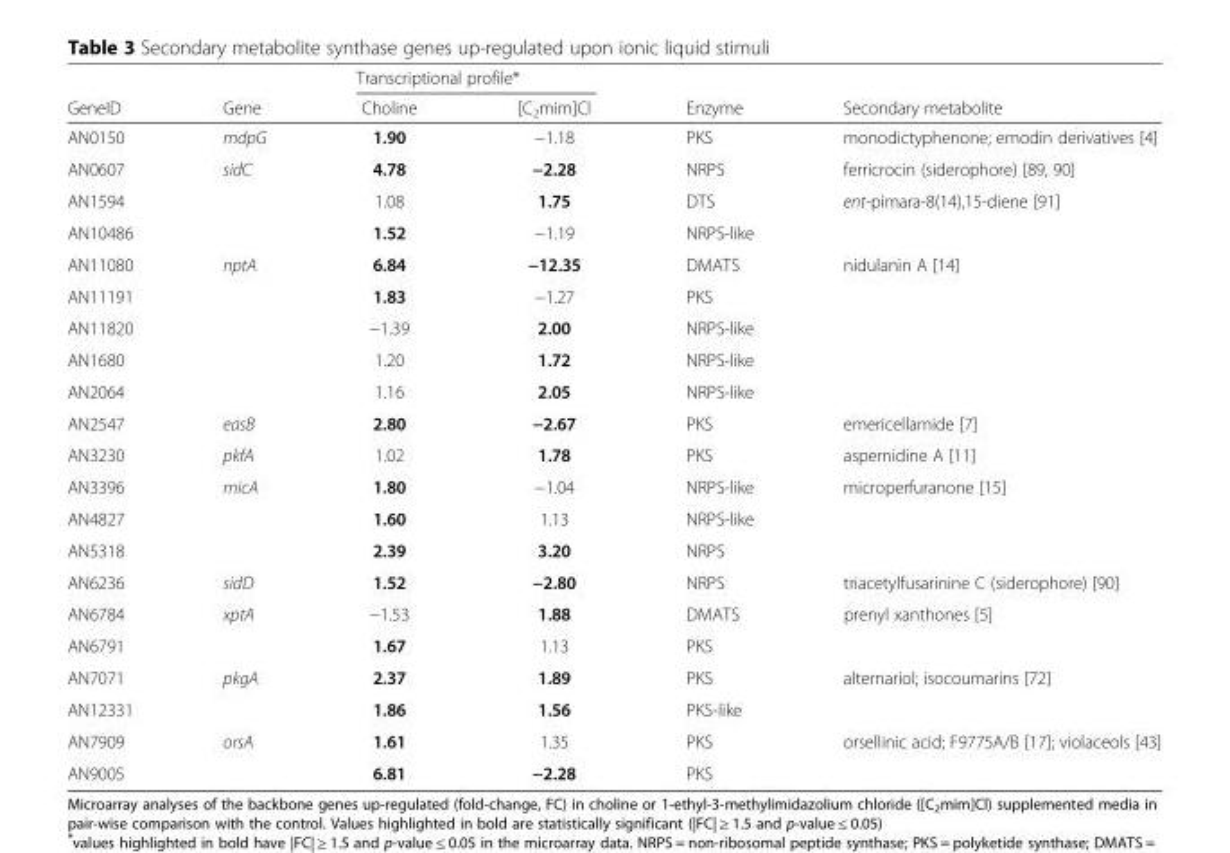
<table><thead><tr><td rowspan="2">GeneID</td><td rowspan="2">Gene</td><td colspan="2">Transcriptional profile*</td><td rowspan="2">Enzyme</td><td rowspan="2">Secondary metabolite</td></tr><tr><td>Choline</td><td>[C<sub>2</sub>mim]Cl</td></tr></thead><tbody><tr><td>AN0150</td><td>mdpG</td><td>1.90</td><td>−1.18</td><td>PKS</td><td>monodictyphenone; emodin derivatives [4]</td></tr><tr><td>AN0607</td><td>sidC</td><td>4.78</td><td>−2.28</td><td>NRPS</td><td>ferricrocin (siderophore) [89, 90]</td></tr><tr><td>AN1594</td><td></td><td>1.08</td><td>1.75</td><td>DTS</td><td>ent-pimara-8(14),15-diene [91]</td></tr><tr><td>AN10486</td><td></td><td>1.52</td><td>−1.19</td><td>NRPS-like</td><td></td></tr><tr><td>AN11080</td><td>nptA</td><td>6.84</td><td>−12.35</td><td>DMATS</td><td>nidulanin A [14]</td></tr><tr><td>AN11191</td><td></td><td>1.83</td><td>−1.27</td><td>PKS</td><td></td></tr><tr><td>AN11820</td><td></td><td>−1.39</td><td>2.00</td><td>NRPS-like</td><td></td></tr><tr><td>AN1680</td><td></td><td>1.20</td><td>1.72</td><td>NRPS-like</td><td></td></tr><tr><td>AN2064</td><td></td><td>1.16</td><td>2.05</td><td>NRPS-like</td><td></td></tr><tr><td>AN2547</td><td>easB</td><td>2.80</td><td>−2.67</td><td>PKS</td><td>emericellamide [7]</td></tr><tr><td>AN3230</td><td>pkfA</td><td>1.02</td><td>1.78</td><td>PKS</td><td>aspernidine A [11]</td></tr><tr><td>AN3396</td><td>micA</td><td>1.80</td><td>−1.04</td><td>NRPS-like</td><td>microperfuranone [15]</td></tr><tr><td>AN4827</td><td></td><td>1.60</td><td>1.13</td><td>NRPS-like</td><td></td></tr><tr><td>AN5318</td><td></td><td>2.39</td><td>3.20</td><td>NRPS</td><td></td></tr><tr><td>AN6236</td><td>sidD</td><td>1.52</td><td>−2.80</td><td>NRPS</td><td>triacetylfusarinine C (siderophore) [90]</td></tr><tr><td>AN6784</td><td>xptA</td><td>−1.53</td><td>1.88</td><td>DMATS</td><td>prenyl xanthones [5]</td></tr><tr><td>AN6791</td><td></td><td>1.67</td><td>1.13</td><td>PKS</td><td></td></tr><tr><td>AN7071</td><td>pkgA</td><td>2.37</td><td>1.89</td><td>PKS</td><td>alternariol; isocoumarins [72]</td></tr><tr><td>AN12331</td><td></td><td>1.86</td><td>1.56</td><td>PKS-like</td><td></td></tr><tr><td>AN7909</td><td>orsA</td><td>1.61</td><td>1.35</td><td>PKS</td><td>orsellinic acid; F9775A/B [17]; violaceols [43]</td></tr><tr><td>AN9005</td><td></td><td>6.81</td><td>−2.28</td><td>PKS</td><td></td></tr></tbody></table>